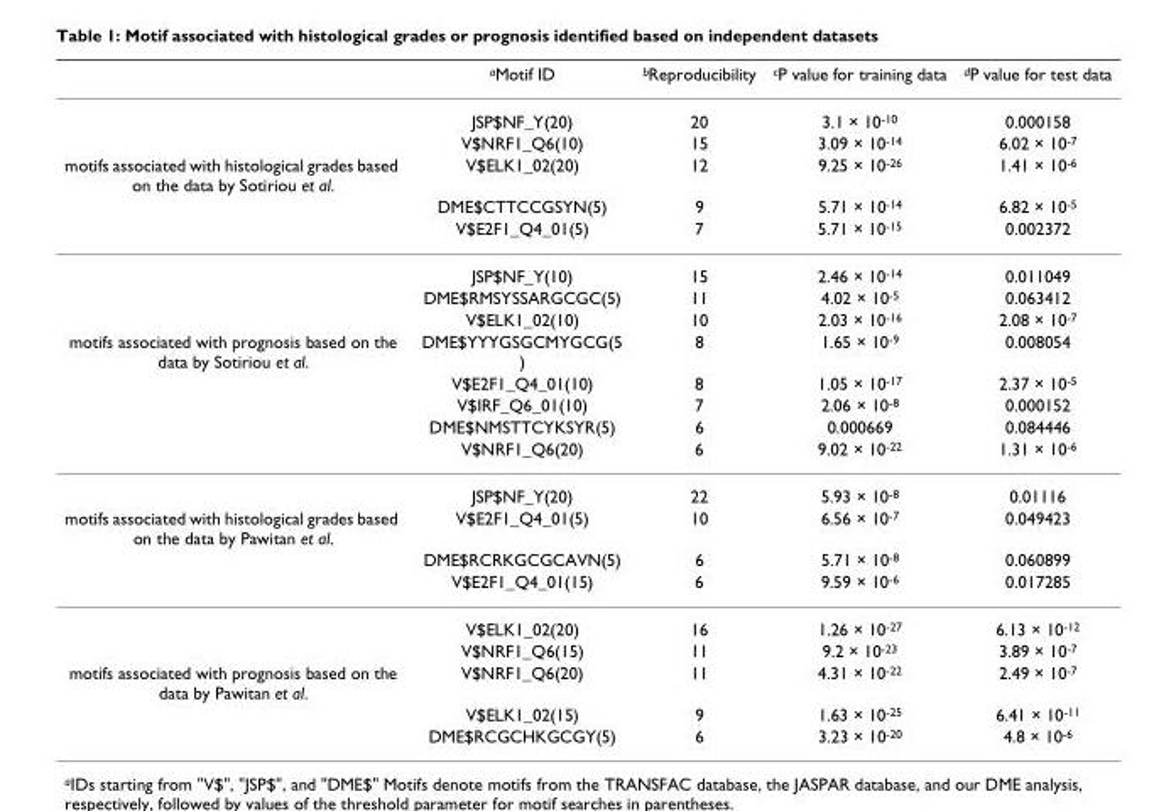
<table><thead><tr><td></td><td><sup>a</sup>Motif ID</td><td><sup>b</sup>Reproducibility</td><td><sup>c</sup>P value for training data</td><td><sup>d</sup>P value for test data</td></tr></thead><tbody><tr><td></td><td>JSP$NF_Y(20)</td><td>20</td><td>3.1 × 10<sup>-10</sup></td><td>0.000158</td></tr><tr><td></td><td>V$NRF1_Q6(10)</td><td>15</td><td>3.09 × 10<sup>-14</sup></td><td>6.02 × 10<sup>-7</sup></td></tr><tr><td rowspan="6">motifs associated with histological grades based on the data by Sotiriou et al.</td><td>V$ELK1_02(20)</td><td>12</td><td>9.25 × 10<sup>-26</sup></td><td>1.41 × 10<sup>-6</sup></td></tr><tr><td>DME$CTTCCGSYN(5)</td><td>9</td><td>5.71 × 10<sup>-14</sup></td><td>6.82 × 10<sup>-5</sup></td></tr><tr><td>V$E2F1_Q4_01(5)</td><td>7</td><td>5.71 × 10<sup>-15</sup></td><td>0.002372</td></tr><tr><td>JSP$NF_Y(10)</td><td>15</td><td>2.46 × 10<sup>-14</sup></td><td>0.011049</td></tr><tr><td>DME$RMSYSSARGCGC(5)</td><td>11</td><td>4.02 × 10<sup>-5</sup></td><td>0.063412</td></tr><tr><td>V$ELK1_02(10)</td><td>10</td><td>2.03 × 10<sup>-16</sup></td><td>2.08 × 10<sup>-7</sup></td></tr><tr><td rowspan="6">motifs associated with prognosis based on the data by Sotiriou et al.</td><td>DME$YYYGSGCMYGCG(5 )</td><td>8</td><td>1.65 × 10<sup>-9</sup></td><td>0.008054</td></tr><tr><td>V$E2F1_Q4_01(10)</td><td>8</td><td>1.05 × 10<sup>-17</sup></td><td>2.37 × 10<sup>-5</sup></td></tr><tr><td>V$IRF_Q6_01(10)</td><td>7</td><td>2.06 × 10<sup>-8</sup></td><td>0.000152</td></tr><tr><td>DME$NMSTTCYKSYR(5)</td><td>6</td><td>0.000669</td><td>0.084446</td></tr><tr><td>V$NRF1_Q6(20)</td><td>6</td><td>9.02 × 10<sup>-22</sup></td><td>1.31 × 10<sup>-6</sup></td></tr><tr><td>JSP$NF_Y(20)</td><td>22</td><td>5.93 × 10<sup>-8</sup></td><td>0.01116</td></tr><tr><td rowspan="5">motifs associated with histological grades based on the data by Pawitan et al.</td><td>V$E2F1_Q4_01(5)</td><td>10</td><td>6.56 × 10<sup>-7</sup></td><td>0.049423</td></tr><tr><td>DME$RCRKGCGCAVN(5)</td><td>6</td><td>5.71 × 10<sup>-8</sup></td><td>0.060899</td></tr><tr><td>V$E2F1_Q4_01(15)</td><td>6</td><td>9.59 × 10<sup>-6</sup></td><td>0.017285</td></tr><tr><td>V$ELK1_02(20)</td><td>16</td><td>1.26 × 10<sup>-27</sup></td><td>6.13 × 10<sup>-12</sup></td></tr><tr><td>V$NRF1_Q6(15)</td><td>11</td><td>9.2 × 10<sup>-23</sup></td><td>3.89 × 10<sup>-7</sup></td></tr><tr><td rowspan="3">motifs associated with prognosis based on the data by Pawitan et al.</td><td>V$NRF1_Q6(20)</td><td>11</td><td>4.31 × 10<sup>-22</sup></td><td>2.49 × 10<sup>-7</sup></td></tr><tr><td>V$ELK1_02(15)</td><td>9</td><td>1.63 × 10<sup>-25</sup></td><td>6.41 × 10<sup>-11</sup></td></tr><tr><td>DME$RCGCHKGCGY(5)</td><td>6</td><td>3.23 × 10<sup>-20</sup></td><td>4.8 × 10<sup>-6</sup></td></tr></tbody></table>